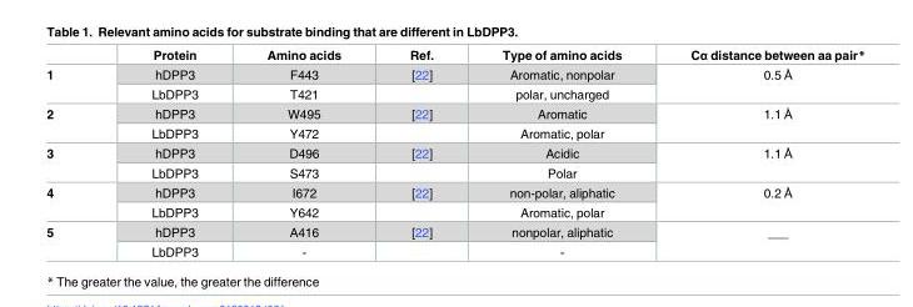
<table><thead><tr><td></td><td>Protein</td><td>Amino acids</td><td>Ref.</td><td>Type of amino acids</td><td>Cα distance between aa pair*</td></tr></thead><tbody><tr><td rowspan="2">1</td><td>hDPP3</td><td>F443</td><td>[22]</td><td>Aromatic, nonpolar</td><td rowspan="2">0.5 Å</td></tr><tr><td>LbDPP3</td><td>T421</td><td></td><td>polar, uncharged</td></tr><tr><td rowspan="2">2</td><td>hDPP3</td><td>W495</td><td>[22]</td><td>Aromatic</td><td rowspan="2">1.1 Å</td></tr><tr><td>LbDPP3</td><td>Y472</td><td></td><td>Aromatic, polar</td></tr><tr><td rowspan="2">3</td><td>hDPP3</td><td>D496</td><td>[22]</td><td>Acidic</td><td rowspan="2">1.1 Å</td></tr><tr><td>LbDPP3</td><td>S473</td><td></td><td>Polar</td></tr><tr><td rowspan="2">4</td><td>hDPP3</td><td>I672</td><td>[22]</td><td>non-polar, aliphatic</td><td rowspan="2">0.2 Å</td></tr><tr><td>LbDPP3</td><td>Y642</td><td></td><td>Aromatic, polar</td></tr><tr><td rowspan="2">5</td><td>hDPP3</td><td>A416</td><td>[22]</td><td>nonpolar, aliphatic</td><td rowspan="2">___</td></tr><tr><td>LbDPP3</td><td>-</td><td></td><td>-</td></tr></tbody></table>